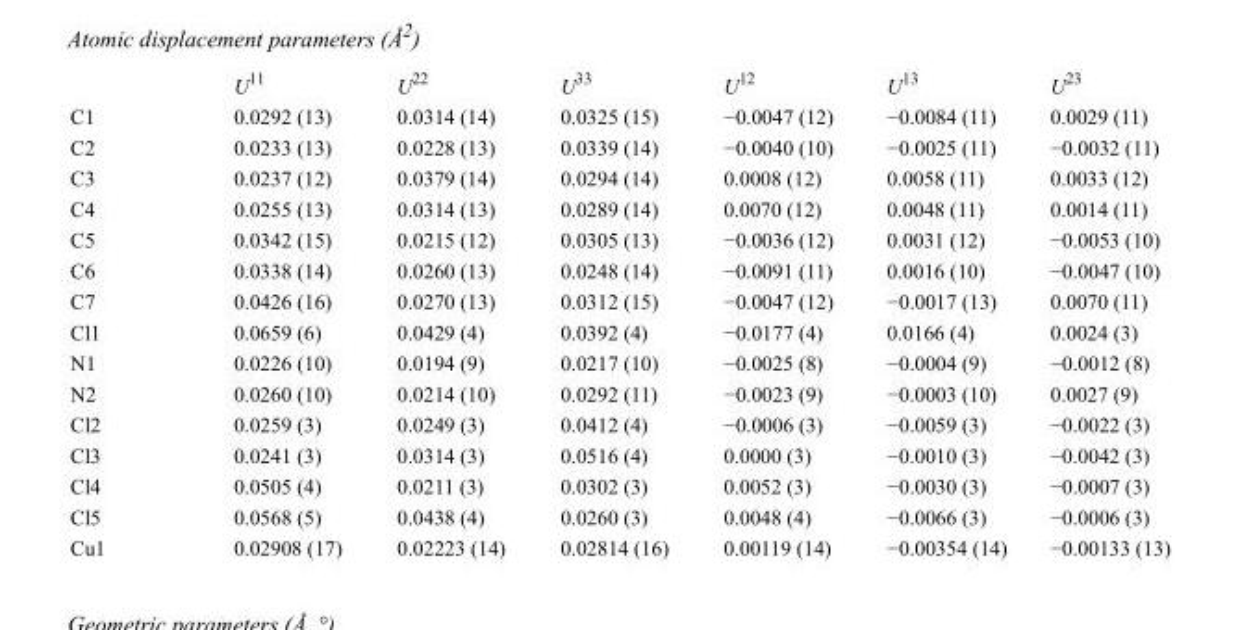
<table><thead><tr><td></td><td>U<sup>11</sup></td><td>U<sup>22</sup></td><td>U<sup>33</sup></td><td>U<sup>12</sup></td><td>U<sup>13</sup></td><td>U<sup>23</sup></td></tr></thead><tbody><tr><td>C1</td><td>0.0292 (13)</td><td>0.0314 (14)</td><td>0.0325 (15)</td><td>−0.0047 (12)</td><td>−0.0084 (11)</td><td>0.0029 (11)</td></tr><tr><td>C2</td><td>0.0233 (13)</td><td>0.0228 (13)</td><td>0.0339 (14)</td><td>−0.0040 (10)</td><td>−0.0025 (11)</td><td>−0.0032 (11)</td></tr><tr><td>C3</td><td>0.0237 (12)</td><td>0.0379 (14)</td><td>0.0294 (14)</td><td>0.0008 (12)</td><td>0.0058 (11)</td><td>0.0033 (12)</td></tr><tr><td>C4</td><td>0.0255 (13)</td><td>0.0314 (13)</td><td>0.0289 (14)</td><td>0.0070 (12)</td><td>0.0048 (11)</td><td>0.0014 (11)</td></tr><tr><td>C5</td><td>0.0342 (15)</td><td>0.0215 (12)</td><td>0.0305 (13)</td><td>−0.0036 (12)</td><td>0.0031 (12)</td><td>−0.0053 (10)</td></tr><tr><td>C6</td><td>0.0338 (14)</td><td>0.0260 (13)</td><td>0.0248 (14)</td><td>−0.0091 (11)</td><td>0.0016 (10)</td><td>−0.0047 (10)</td></tr><tr><td>C7</td><td>0.0426 (16)</td><td>0.0270 (13)</td><td>0.0312 (15)</td><td>−0.0047 (12)</td><td>−0.0017 (13)</td><td>0.0070 (11)</td></tr><tr><td>Cl1</td><td>0.0659 (6)</td><td>0.0429 (4)</td><td>0.0392 (4)</td><td>−0.0177 (4)</td><td>0.0166 (4)</td><td>0.0024 (3)</td></tr><tr><td>N1</td><td>0.0226 (10)</td><td>0.0194 (9)</td><td>0.0217 (10)</td><td>−0.0025 (8)</td><td>−0.0004 (9)</td><td>−0.0012 (8)</td></tr><tr><td>N2</td><td>0.0260 (10)</td><td>0.0214 (10)</td><td>0.0292 (11)</td><td>−0.0023 (9)</td><td>−0.0003 (10)</td><td>0.0027 (9)</td></tr><tr><td>Cl2</td><td>0.0259 (3)</td><td>0.0249 (3)</td><td>0.0412 (4)</td><td>−0.0006 (3)</td><td>−0.0059 (3)</td><td>−0.0022 (3)</td></tr><tr><td>Cl3</td><td>0.0241 (3)</td><td>0.0314 (3)</td><td>0.0516 (4)</td><td>0.0000 (3)</td><td>−0.0010 (3)</td><td>−0.0042 (3)</td></tr><tr><td>Cl4</td><td>0.0505 (4)</td><td>0.0211 (3)</td><td>0.0302 (3)</td><td>0.0052 (3)</td><td>−0.0030 (3)</td><td>−0.0007 (3)</td></tr><tr><td>Cl5</td><td>0.0568 (5)</td><td>0.0438 (4)</td><td>0.0260 (3)</td><td>0.0048 (4)</td><td>−0.0066 (3)</td><td>−0.0006 (3)</td></tr><tr><td>Cu1</td><td>0.02908 (17)</td><td>0.02223 (14)</td><td>0.02814 (16)</td><td>0.00119 (14)</td><td>−0.00354 (14)</td><td>−0.00133 (13)</td></tr></tbody></table>